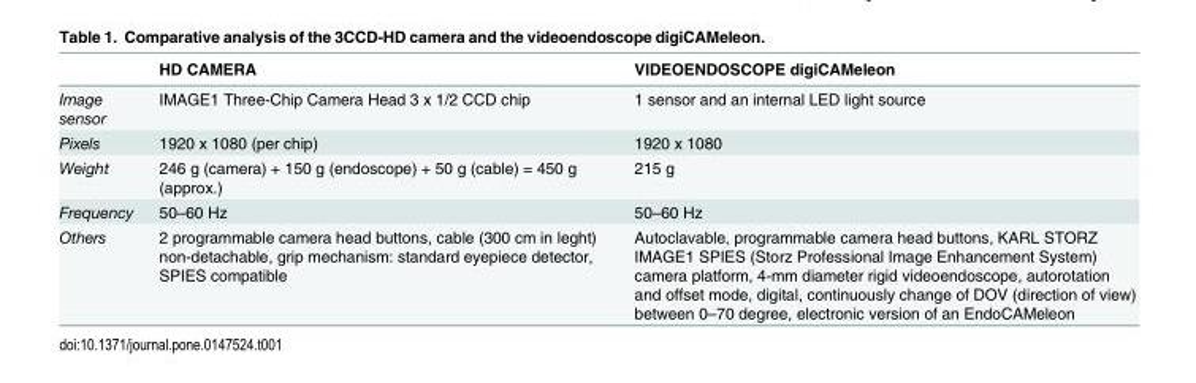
<table><thead><tr><td></td><td>HD CAMERA</td><td>VIDEOENDOSCOPE digiCAMeleon</td></tr></thead><tbody><tr><td>Image sensor</td><td>IMAGE1 Three-Chip Camera Head 3 x 1/2 CCD chip</td><td>1 sensor and an internal LED light source</td></tr><tr><td>Pixels</td><td>1920 x 1080 (per chip)</td><td>1920 x 1080</td></tr><tr><td>Weight</td><td>246 g (camera) + 150 g (endoscope) + 50 g (cable) = 450 g (approx.)</td><td>215 g</td></tr><tr><td>Frequency</td><td>50–60 Hz</td><td>50–60 Hz</td></tr><tr><td>Others</td><td>2 programmable camera head buttons, cable (300 cm in leght) non-detachable, grip mechanism: standard eyepiece detector, SPIES compatible</td><td>Autoclavable, programmable camera head buttons, KARL STORZ IMAGE1 SPIES (Storz Professional Image Enhancement System) camera platform, 4-mm diameter rigid videoendoscope, autorotation and offset mode, digital, continuously change of DOV (direction of view) between 0–70 degree, electronic version of an EndoCAMeleon</td></tr></tbody></table>